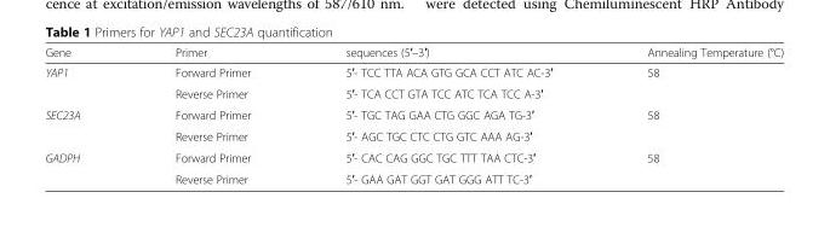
<table><thead><tr><td>Gene</td><td>Primer</td><td>sequences (5′–3′)</td><td>Annealing Temperature (°C)</td></tr></thead><tbody><tr><td rowspan="2">YAP1</td><td>Forward Primer</td><td>5′- TCC TTA ACA GTG GCA CCT ATC AC-3′</td><td rowspan="2">58</td></tr><tr><td>Reverse Primer</td><td>5′- TCA CCT GTA TCC ATC TCA TCC A-3′</td></tr><tr><td rowspan="2">SEC23A</td><td>Forward Primer</td><td>5′- TGC TAG GAA CTG GGC AGA TG-3′</td><td rowspan="2">58</td></tr><tr><td>Reverse Primer</td><td>5′- AGC TGC CTC CTG GTC AAA AG-3′</td></tr><tr><td rowspan="2">GADPH</td><td>Forward Primer</td><td>5′- CAC CAG GGC TGC TTT TAA CTC-3′</td><td rowspan="2">58</td></tr><tr><td>Reverse Primer</td><td>5′- GAA GAT GGT GAT GGG ATT TC-3′</td></tr></tbody></table>